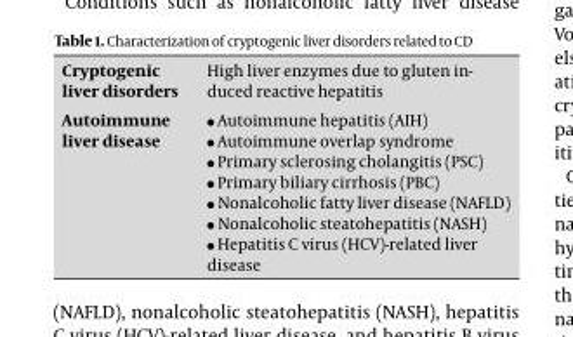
<table><tbody><tr><td>Cryptogenic liver disorders</td><td>High liver enzymes due to gluten in- duced reactive hepatitis</td></tr><tr><td rowspan="7">Autoimmune liver disease</td><td>Autoimmune hepatitis (AIH)</td></tr><tr><td>Autoimmune overlap syndrome</td></tr><tr><td>Primary sclerosing cholangitis (PSC)</td></tr><tr><td>Primary biliary cirrhosis (PBC)</td></tr><tr><td>Nonalcoholic fatty liver disease (NAFLD)</td></tr><tr><td>Nonalcoholic steatohepatitis (NASH)</td></tr><tr><td>Hepatitis C virus (HCV)-related liver disease</td></tr></tbody></table>